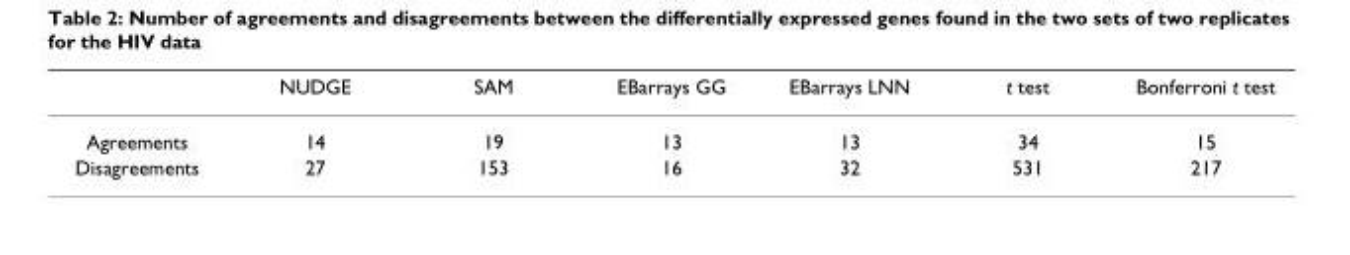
<table><thead><tr><td></td><td>NUDGE</td><td>SAM</td><td>EBarrays GG</td><td>EBarrays LNN</td><td>t test</td><td>Bonferroni t test</td></tr></thead><tbody><tr><td>Agreements</td><td>14</td><td>19</td><td>13</td><td>13</td><td>34</td><td>15</td></tr><tr><td>Disagreements</td><td>27</td><td>153</td><td>16</td><td>32</td><td>531</td><td>217</td></tr></tbody></table>